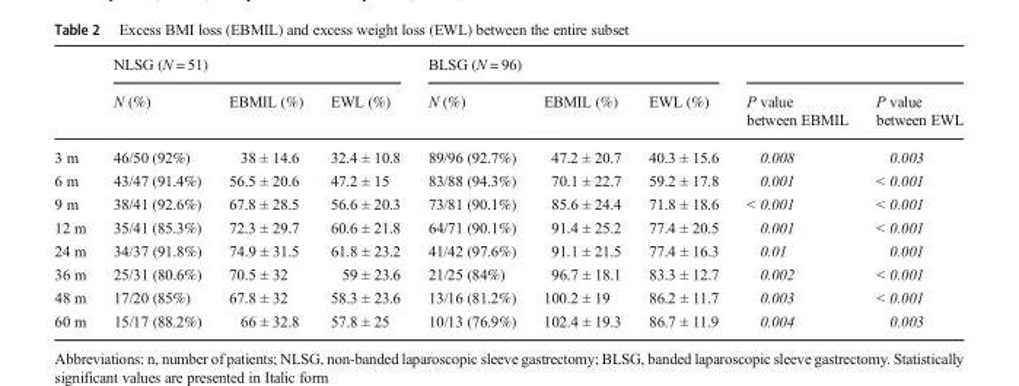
<table><thead><tr><td rowspan="2"></td><td colspan="3">NLSG (N = 51)</td><td colspan="3">BLSG (N = 96)</td><td rowspan="2">P value between EBMIL</td><td rowspan="2">P value between EWL</td></tr><tr><td>N (%)</td><td>EBMIL (%)</td><td>EWL (%)</td><td>N (%)</td><td>EBMIL (%)</td><td>EWL (%)</td></tr></thead><tbody><tr><td>3 m</td><td>46/50 (92%)</td><td>38 ± 14.6</td><td>32.4 ± 10.8</td><td>89/96 (92.7%)</td><td>47.2 ± 20.7</td><td>40.3 ± 15.6</td><td>0.008</td><td>0.003</td></tr><tr><td>6 m</td><td>43/47 (91.4%)</td><td>56.5 ± 20.6</td><td>47.2 ± 15</td><td>83/88 (94.3%)</td><td>70.1 ± 22.7</td><td>59.2 ± 17.8</td><td>0.001</td><td>&lt; 0.001</td></tr><tr><td>9 m</td><td>38/41 (92.6%)</td><td>67.8 ± 28.5</td><td>56.6 ± 20.3</td><td>73/81 (90.1%)</td><td>85.6 ± 24.4</td><td>71.8 ± 18.6</td><td>&lt; 0.001</td><td>&lt; 0.001</td></tr><tr><td>12 m</td><td>35/41 (85.3%)</td><td>72.3 ± 29.7</td><td>60.6 ± 21.8</td><td>64/71 (90.1%)</td><td>91.4 ± 25.2</td><td>77.4 ± 20.5</td><td>0.001</td><td>&lt; 0.001</td></tr><tr><td>24 m</td><td>34/37 (91.8%)</td><td>74.9 ± 31.5</td><td>61.8 ± 23.2</td><td>41/42 (97.6%)</td><td>91.1 ± 21.5</td><td>77.4 ± 16.3</td><td>0.01</td><td>0.001</td></tr><tr><td>36 m</td><td>25/31 (80.6%)</td><td>70.5 ± 32</td><td>59 ± 23.6</td><td>21/25 (84%)</td><td>96.7 ± 18.1</td><td>83.3 ± 12.7</td><td>0.002</td><td>&lt; 0.001</td></tr><tr><td>48 m</td><td>17/20 (85%)</td><td>67.8 ± 32</td><td>58.3 ± 23.6</td><td>13/16 (81.2%)</td><td>100.2 ± 19</td><td>86.2 ± 11.7</td><td>0.003</td><td>&lt; 0.001</td></tr><tr><td>60 m</td><td>15/17 (88.2%)</td><td>66 ± 32.8</td><td>57.8 ± 25</td><td>10/13 (76.9%)</td><td>102.4 ± 19.3</td><td>86.7 ± 11.9</td><td>0.004</td><td>0.003</td></tr></tbody></table>